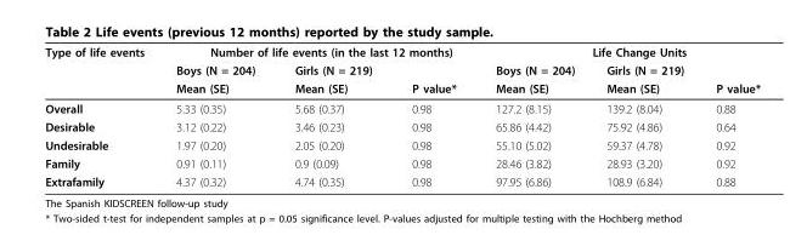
<table><thead><tr><td rowspan="3">Type of life events</td><td colspan="3">Number of life events (in the last 12 months)</td><td colspan="3">Life Change Units</td></tr><tr><td rowspan="2">Boys (N = 204) Mean (SE)</td><td rowspan="2">Girls (N = 219) Mean (SE)</td><td rowspan="2">P value*</td><td rowspan="2">Boys (N = 204) Mean (SE)</td><td rowspan="2">Girls (N = 219) Mean (SE)</td><td rowspan="2">P value*</td></tr><tr></tr></thead><tbody><tr><td>Overall</td><td>5.33 (0.35)</td><td>5.68 (0.37)</td><td>0.98</td><td>127.2 (8.15)</td><td>139.2 (8.04)</td><td>0.88</td></tr><tr><td>Desirable</td><td>3.12 (0.22)</td><td>3.46 (0.23)</td><td>0.98</td><td>65.86 (4.42)</td><td>75.92 (4.86)</td><td>0.64</td></tr><tr><td>Undesirable</td><td>1.97 (0.20)</td><td>2.05 (0.20)</td><td>0.98</td><td>55.10 (5.02)</td><td>59.37 (4.78)</td><td>0.92</td></tr><tr><td>Family</td><td>0.91 (0.11)</td><td>0.9 (0.09)</td><td>0.98</td><td>28.46 (3.82)</td><td>28.93 (3.20)</td><td>0.92</td></tr><tr><td>Extrafamily</td><td>4.37 (0.32)</td><td>4.74 (0.35)</td><td>0.98</td><td>97.95 (6.86)</td><td>108.9 (6.84)</td><td>0.88</td></tr></tbody></table>